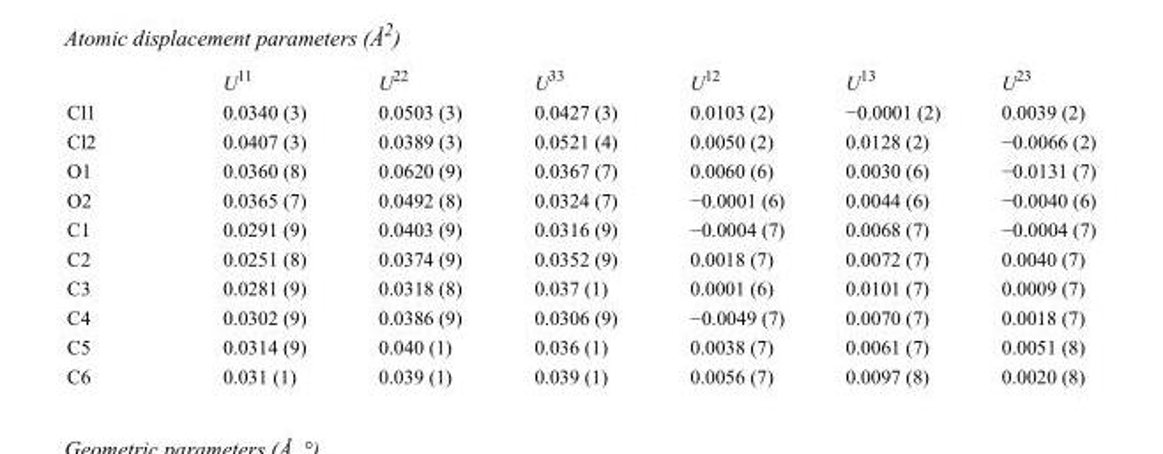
<table><thead><tr><td></td><td>U<sup>11</sup></td><td>U<sup>22</sup></td><td>U<sup>33</sup></td><td>U<sup>12</sup></td><td>U<sup>13</sup></td><td>U<sup>23</sup></td></tr></thead><tbody><tr><td>Cl1</td><td>0.0340 (3)</td><td>0.0503 (3)</td><td>0.0427 (3)</td><td>0.0103 (2)</td><td>−0.0001 (2)</td><td>0.0039 (2)</td></tr><tr><td>Cl2</td><td>0.0407 (3)</td><td>0.0389 (3)</td><td>0.0521 (4)</td><td>0.0050 (2)</td><td>0.0128 (2)</td><td>−0.0066 (2)</td></tr><tr><td>O1</td><td>0.0360 (8)</td><td>0.0620 (9)</td><td>0.0367 (7)</td><td>0.0060 (6)</td><td>0.0030 (6)</td><td>−0.0131 (7)</td></tr><tr><td>O2</td><td>0.0365 (7)</td><td>0.0492 (8)</td><td>0.0324 (7)</td><td>−0.0001 (6)</td><td>0.0044 (6)</td><td>−0.0040 (6)</td></tr><tr><td>C1</td><td>0.0291 (9)</td><td>0.0403 (9)</td><td>0.0316 (9)</td><td>−0.0004 (7)</td><td>0.0068 (7)</td><td>−0.0004 (7)</td></tr><tr><td>C2</td><td>0.0251 (8)</td><td>0.0374 (9)</td><td>0.0352 (9)</td><td>0.0018 (7)</td><td>0.0072 (7)</td><td>0.0040 (7)</td></tr><tr><td>C3</td><td>0.0281 (9)</td><td>0.0318 (8)</td><td>0.037 (1)</td><td>0.0001 (6)</td><td>0.0101 (7)</td><td>0.0009 (7)</td></tr><tr><td>C4</td><td>0.0302 (9)</td><td>0.0386 (9)</td><td>0.0306 (9)</td><td>−0.0049 (7)</td><td>0.0070 (7)</td><td>0.0018 (7)</td></tr><tr><td>C5</td><td>0.0314 (9)</td><td>0.040 (1)</td><td>0.036 (1)</td><td>0.0038 (7)</td><td>0.0061 (7)</td><td>0.0051 (8)</td></tr><tr><td>C6</td><td>0.031 (1)</td><td>0.039 (1)</td><td>0.039 (1)</td><td>0.0056 (7)</td><td>0.0097 (8)</td><td>0.0020 (8)</td></tr></tbody></table>